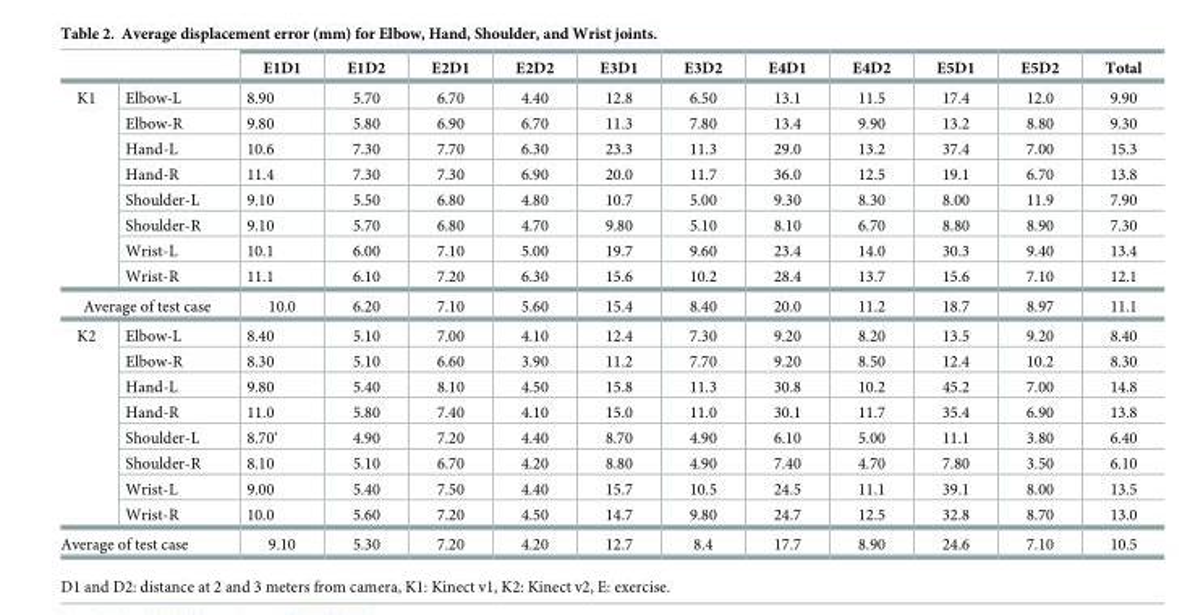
<table><thead><tr><td></td><td></td><td>E1D1</td><td>E1D2</td><td>E2D1</td><td>E2D2</td><td>E3D1</td><td>E3D2</td><td>E4D1</td><td>E4D2</td><td>E5D1</td><td>E5D2</td><td>Total</td></tr></thead><tbody><tr><td rowspan="8">K1</td><td>Elbow-L</td><td>8.90</td><td>5.70</td><td>6.70</td><td>4.40</td><td>12.8</td><td>6.50</td><td>13.1</td><td>11.5</td><td>17.4</td><td>12.0</td><td>9.90</td></tr><tr><td>Elbow-R</td><td>9.80</td><td>5.80</td><td>6.90</td><td>6.70</td><td>11.3</td><td>7.80</td><td>13.4</td><td>9.90</td><td>13.2</td><td>8.80</td><td>9.30</td></tr><tr><td>Hand-L</td><td>10.6</td><td>7.30</td><td>7.70</td><td>6.30</td><td>23.3</td><td>11.3</td><td>29.0</td><td>13.2</td><td>37.4</td><td>7.00</td><td>15.3</td></tr><tr><td>Hand-R</td><td>11.4</td><td>7.30</td><td>7.30</td><td>6.90</td><td>20.0</td><td>11.7</td><td>36.0</td><td>12.5</td><td>19.1</td><td>6.70</td><td>13.8</td></tr><tr><td>Shoulder-L</td><td>9.10</td><td>5.50</td><td>6.80</td><td>4.80</td><td>10.7</td><td>5.00</td><td>9.30</td><td>8.30</td><td>8.00</td><td>11.9</td><td>7.90</td></tr><tr><td>Shoulder-R</td><td>9.10</td><td>5.70</td><td>6.80</td><td>4.70</td><td>9.80</td><td>5.10</td><td>8.10</td><td>6.70</td><td>8.80</td><td>8.90</td><td>7.30</td></tr><tr><td>Wrist-L</td><td>10.1</td><td>6.00</td><td>7.10</td><td>5.00</td><td>19.7</td><td>9.60</td><td>23.4</td><td>14.0</td><td>30.3</td><td>9.40</td><td>13.4</td></tr><tr><td>Wrist-R</td><td>11.1</td><td>6.10</td><td>7.20</td><td>6.30</td><td>15.6</td><td>10.2</td><td>28.4</td><td>13.7</td><td>15.6</td><td>7.10</td><td>12.1</td></tr><tr><td colspan="2">Average of test case</td><td>10.0</td><td>6.20</td><td>7.10</td><td>5.60</td><td>15.4</td><td>8.40</td><td>20.0</td><td>11.2</td><td>18.7</td><td>8.97</td><td>11.1</td></tr><tr><td rowspan="8">K2</td><td>Elbow-L</td><td>8.40</td><td>5.10</td><td>7.00</td><td>4.10</td><td>12.4</td><td>7.30</td><td>9.20</td><td>8.20</td><td>13.5</td><td>9.20</td><td>8.40</td></tr><tr><td>Elbow-R</td><td>8.30</td><td>5.10</td><td>6.60</td><td>3.90</td><td>11.2</td><td>7.70</td><td>9.20</td><td>8.50</td><td>12.4</td><td>10.2</td><td>8.30</td></tr><tr><td>Hand-L</td><td>9.80</td><td>5.40</td><td>8.10</td><td>4.50</td><td>15.8</td><td>11.3</td><td>30.8</td><td>10.2</td><td>45.2</td><td>7.00</td><td>14.8</td></tr><tr><td>Hand-R</td><td>11.0</td><td>5.80</td><td>7.40</td><td>4.10</td><td>15.0</td><td>11.0</td><td>30.1</td><td>11.7</td><td>35.4</td><td>6.90</td><td>13.8</td></tr><tr><td>Shoulder-L</td><td>8.70‘</td><td>4.90</td><td>7.20</td><td>4.40</td><td>8.70</td><td>4.90</td><td>6.10</td><td>5.00</td><td>11.1</td><td>3.80</td><td>6.40</td></tr><tr><td>Shoulder-R</td><td>8.10</td><td>5.10</td><td>6.70</td><td>4.20</td><td>8.80</td><td>4.90</td><td>7.40</td><td>4.70</td><td>7.80</td><td>3.50</td><td>6.10</td></tr><tr><td>Wrist-L</td><td>9.00</td><td>5.40</td><td>7.50</td><td>4.40</td><td>15.7</td><td>10.5</td><td>24.5</td><td>11.1</td><td>39.1</td><td>8.00</td><td>13.5</td></tr><tr><td>Wrist-R</td><td>10.0</td><td>5.60</td><td>7.20</td><td>4.50</td><td>14.7</td><td>9.80</td><td>24.7</td><td>12.5</td><td>32.8</td><td>8.70</td><td>13.0</td></tr><tr><td colspan="2">Average of test case</td><td>9.10</td><td>5.30</td><td>7.20</td><td>4.20</td><td>12.7</td><td>8.4</td><td>17.7</td><td>8.90</td><td>24.6</td><td>7.10</td><td>10.5</td></tr></tbody></table>